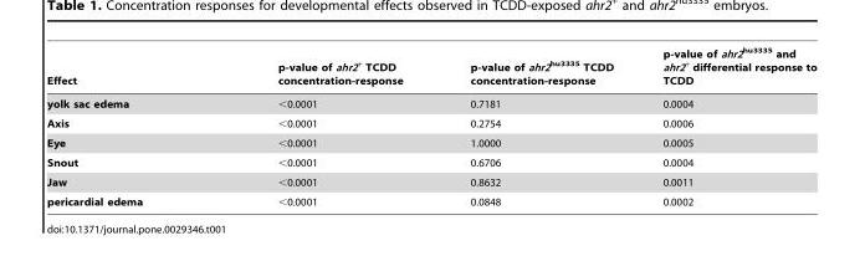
<table><thead><tr><td>Effect</td><td>p-value of ahr2<sup>+</sup> TCDD concentration-response</td><td>p-value of ahr2<sup>hu3335</sup> TCDD concentration-response</td><td>p-value of ahr2<sup>hu3335</sup> and ahr2<sup>+</sup> differential response to TCDD</td></tr></thead><tbody><tr><td>yolk sac edema</td><td>&lt;0.0001</td><td>0.7181</td><td>0.0004</td></tr><tr><td>Axis</td><td>&lt;0.0001</td><td>0.2754</td><td>0.0006</td></tr><tr><td>Eye</td><td>&lt;0.0001</td><td>1.0000</td><td>0.0005</td></tr><tr><td>Snout</td><td>&lt;0.0001</td><td>0.6706</td><td>0.0004</td></tr><tr><td>Jaw</td><td>&lt;0.0001</td><td>0.8632</td><td>0.0011</td></tr><tr><td>pericardial edema</td><td>&lt;0.0001</td><td>0.0848</td><td>0.0002</td></tr></tbody></table>